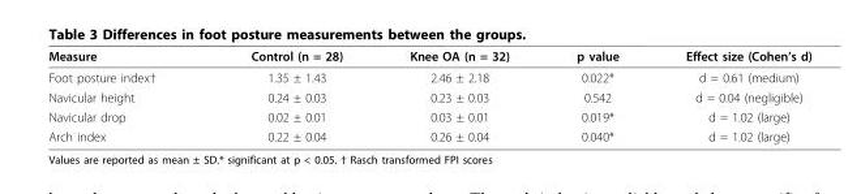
<table><thead><tr><td>Measure</td><td>Control (n = 28)</td><td>Knee OA (n = 32)</td><td>p value</td><td>Effect size (Cohen’s d)</td></tr></thead><tbody><tr><td>Foot posture index†</td><td>1.35 ± 1.43</td><td>2.46 ± 2.18</td><td>0.022*</td><td>d = 0.61 (medium)</td></tr><tr><td>Navicular height</td><td>0.24 ± 0.03</td><td>0.23 ± 0.03</td><td>0.542</td><td>d = 0.04 (negligible)</td></tr><tr><td>Navicular drop</td><td>0.02 ± 0.01</td><td>0.03 ± 0.01</td><td>0.019*</td><td>d = 1.02 (large)</td></tr><tr><td>Arch index</td><td>0.22 ± 0.04</td><td>0.26 ± 0.04</td><td>0.040*</td><td>d = 1.02 (large)</td></tr></tbody></table>